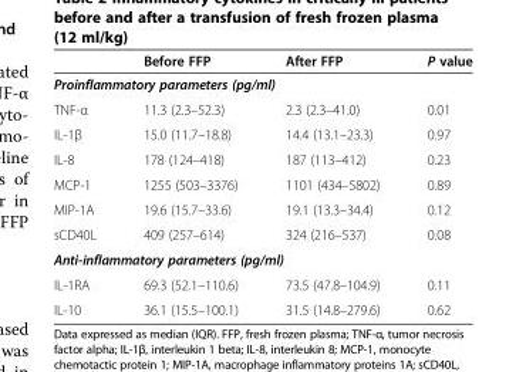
<table><thead><tr><td></td><td>Before FFP</td><td>After FFP</td><td>P value</td></tr></thead><tbody><tr><td colspan="4">Proinflammatory parameters (pg/ml)</td></tr><tr><td>TNF-α</td><td>11.3 (2.3–52.3)</td><td>2.3 (2.3–41.0)</td><td>0.01</td></tr><tr><td>IL-1β</td><td>15.0 (11.7–18.8)</td><td>14.4 (13.1–23.3)</td><td>0.97</td></tr><tr><td>IL-8</td><td>178 (124–418)</td><td>187 (113–412)</td><td>0.23</td></tr><tr><td>MCP-1</td><td>1255 (503–3376)</td><td>1101 (434–5802)</td><td>0.89</td></tr><tr><td>MIP-1A</td><td>19.6 (15.7–33.6)</td><td>19.1 (13.3–34.4)</td><td>0.12</td></tr><tr><td>sCD40L</td><td>409 (257–614)</td><td>324 (216–537)</td><td>0.08</td></tr><tr><td colspan="4">Anti-inflammatory parameters (pg/ml)</td></tr><tr><td>IL-1RA</td><td>69.3 (52.1–110.6)</td><td>73.5 (47.8–104.9)</td><td>0.11</td></tr><tr><td>IL-10</td><td>36.1 (15.5–100.1)</td><td>31.5 (14.8–279.6)</td><td>0.62</td></tr></tbody></table>